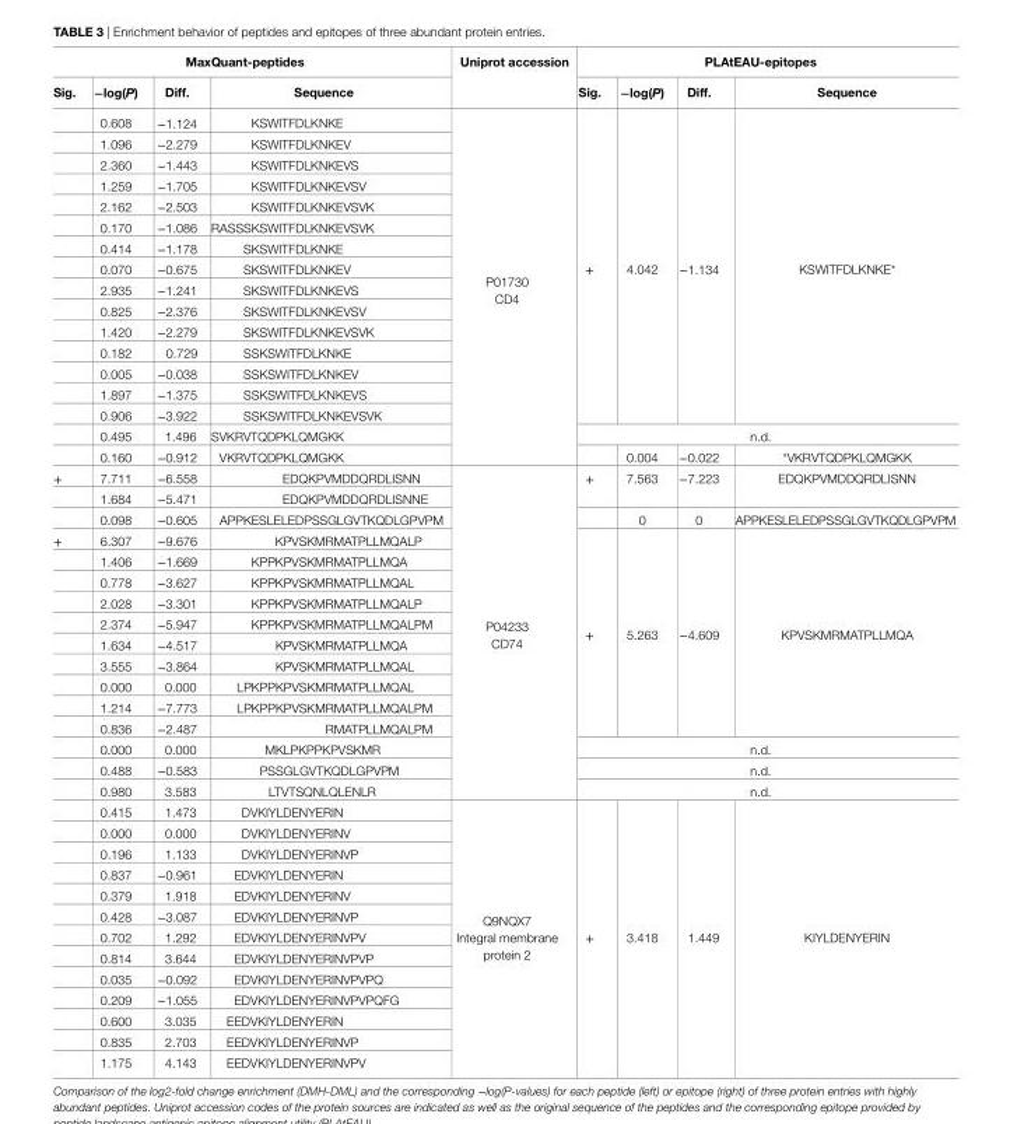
<table><thead><tr><td colspan="4">MaxQuant-peptides</td><td rowspan="2">Uniprot accession</td><td colspan="4">PLAteAU-epitopes</td></tr><tr><td>sig.</td><td>−log(P)</td><td>diff.</td><td>sequence</td><td>sig.</td><td>−log(P)</td><td>diff.</td><td>sequence</td></tr></thead><tbody><tr><td></td><td>0.608</td><td>−1.124</td><td>KSWITFDLKNKE</td><td rowspan="17">P01730 CD4</td><td rowspan="15">+</td><td rowspan="15">4.042</td><td rowspan="15">−1.134</td><td rowspan="15">KSWITFDLKNKE*</td></tr><tr><td></td><td>1.096</td><td>−2.279</td><td>KSWITFDLKNKEV</td></tr><tr><td></td><td>2.360</td><td>−1.443</td><td>KSWITFDLKNKEVS</td></tr><tr><td></td><td>1.259</td><td>−1.705</td><td>KSWITFDLKNKEVSV</td></tr><tr><td></td><td>2.162</td><td>−2.503</td><td>KSWITFDLKNKEVSVK</td></tr><tr><td></td><td>0.170</td><td>−1.086</td><td>RASSSKSWITFDLKNKEVSVK</td></tr><tr><td></td><td>0.414</td><td>−1.178</td><td>SKSWITFDLKNKE</td></tr><tr><td></td><td>0.070</td><td>−0.675</td><td>SKSWITFDLKNKEV</td></tr><tr><td></td><td>2.935</td><td>−1.241</td><td>SKSWITFDLKNKEVS</td></tr><tr><td></td><td>0.825</td><td>−2.376</td><td>SKSWITFDLKNKEVSV</td></tr><tr><td></td><td>1.420</td><td>−2.279</td><td>SKSWITFDLKNKEVSVK</td></tr><tr><td></td><td>0.182</td><td>0.729</td><td>SSKSWITFDLKNKE</td></tr><tr><td></td><td>0.005</td><td>−0.038</td><td>SSKSWITFDLKNKEV</td></tr><tr><td></td><td>1.897</td><td>−1.375</td><td>SSKSWITFDLKNKEVS</td></tr><tr><td></td><td>0.906</td><td>−3.922</td><td>SSKSWITFDLKNKEVSVK</td></tr><tr><td></td><td>0.495</td><td>1.496</td><td>SVKRVTQDPKLQMGKK</td><td colspan="4">n.d.</td></tr><tr><td></td><td>0.160</td><td>−0.912</td><td>VKRVTQDPKLQMGKK</td><td></td><td>0.004</td><td>−0.022</td><td>*VKRVTQDPKLQMGKK</td></tr><tr><td rowspan="3">+</td><td>7.711</td><td>−6.558</td><td>EDQKPVMDDQRDLISNN</td><td rowspan="16">P04233 CD74</td><td rowspan="2">+</td><td rowspan="2">7.563</td><td rowspan="2">−7.223</td><td rowspan="2">EDQKPVMDDQRDLISNN</td></tr><tr><td>1.684</td><td>−5.471</td><td>EDQKPVMDDQRDLISNNE</td></tr><tr><td>0.098</td><td>−0.605</td><td>APPKESLELEDPSSGLGVTKQDLGPVPM</td><td></td><td>0</td><td>0</td><td>APPKESLELEDPSSGLGVTKQDLGPVPM</td></tr><tr><td rowspan="26">+</td><td>6.307</td><td>−9.676</td><td>KPVSKMRMATPLLMQALP</td><td rowspan="10">+</td><td rowspan="10">5.263</td><td rowspan="10">−4.609</td><td rowspan="10">KPVSKMRMATPLLMQA</td></tr><tr><td>1.406</td><td>−1.669</td><td>KPPKPVSKMRMATPLLMQA</td></tr><tr><td>0.778</td><td>−3.627</td><td>KPPKPVSKMRMATPLLMQAL</td></tr><tr><td>2.028</td><td>−3.301</td><td>KPPKPVSKMRMATPLLMQALP</td></tr><tr><td>2.374</td><td>−5.947</td><td>KPPKPVSKMRMATPLLMQALPM</td></tr><tr><td>1.634</td><td>−4.517</td><td>KPVSKMRMATPLLMQA</td></tr><tr><td>3.555</td><td>−3.864</td><td>KPVSKMRMATPLLMQAL</td></tr><tr><td>0.000</td><td>0.000</td><td>LPKPPKPVSKMRMATPLLMQAL</td></tr><tr><td>1.214</td><td>−7.773</td><td>LPKPPKPVSKMRMATPLLMQALPM</td></tr><tr><td>0.836</td><td>−2.487</td><td>RMATPLLMQALPM</td></tr><tr><td>0.000</td><td>0.000</td><td>MKLPKPPKPVSKMR</td><td colspan="4">n.d.</td></tr><tr><td>0.488</td><td>−0.583</td><td>PSSGLGVTKQDLGPVPM</td><td colspan="4">n.d.</td></tr><tr><td>0.980</td><td>3.583</td><td>LTVTSQNLQLENLR</td><td colspan="4">n.d.</td></tr><tr><td>0.415</td><td>1.473</td><td>DVKIYLDENYERIN</td><td rowspan="13">Q9NQX7 Integral membrane protein 2</td><td rowspan="13">+</td><td rowspan="13">3.418</td><td rowspan="13">1.449</td><td rowspan="13">KIYLDENYERIN</td></tr><tr><td>0.000</td><td>0.000</td><td>DVKIYLDENYERINV</td></tr><tr><td>0.196</td><td>1.133</td><td>DVKIYLDENYERINVP</td></tr><tr><td>0.837</td><td>−0.961</td><td>EDVKIYLDENYERIN</td></tr><tr><td>0.379</td><td>1.918</td><td>EDVKIYLDENYERINV</td></tr><tr><td>0.428</td><td>−3.087</td><td>EDVKIYLDENYERINVP</td></tr><tr><td>0.702</td><td>1.292</td><td>EDVKIYLDENYERINVPV</td></tr><tr><td>0.814</td><td>3.644</td><td>EDVKIYLDENYERINVPVP</td></tr><tr><td>0.035</td><td>−0.092</td><td>EDVKIYLDENYERINVPVPQ</td></tr><tr><td>0.209</td><td>−1.055</td><td>EDVKIYLDENYERINVPVPQFG</td></tr><tr><td>0.600</td><td>3.035</td><td>EEDVKIYLDENYERIN</td></tr><tr><td>0.835</td><td>2.703</td><td>EEDVKIYLDENYERINVP</td></tr><tr><td>1.175</td><td>4.143</td><td>EEDVKIYLDENYERINVPV</td></tr></tbody></table>